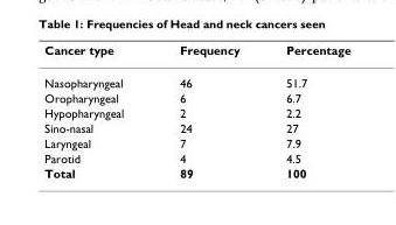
<table><thead><tr><td>Cancer type</td><td>Frequency</td><td>Percentage</td></tr></thead><tbody><tr><td>Nasopharyngeal</td><td>46</td><td>51.7</td></tr><tr><td>Oropharyngeal</td><td>6</td><td>6.7</td></tr><tr><td>Hypopharyngeal</td><td>2</td><td>2.2</td></tr><tr><td>Sino-nasal</td><td>24</td><td>27</td></tr><tr><td>Laryngeal</td><td>7</td><td>7.9</td></tr><tr><td>Parotid</td><td>4</td><td>4.5</td></tr><tr><td>Total</td><td>89</td><td>100</td></tr></tbody></table>